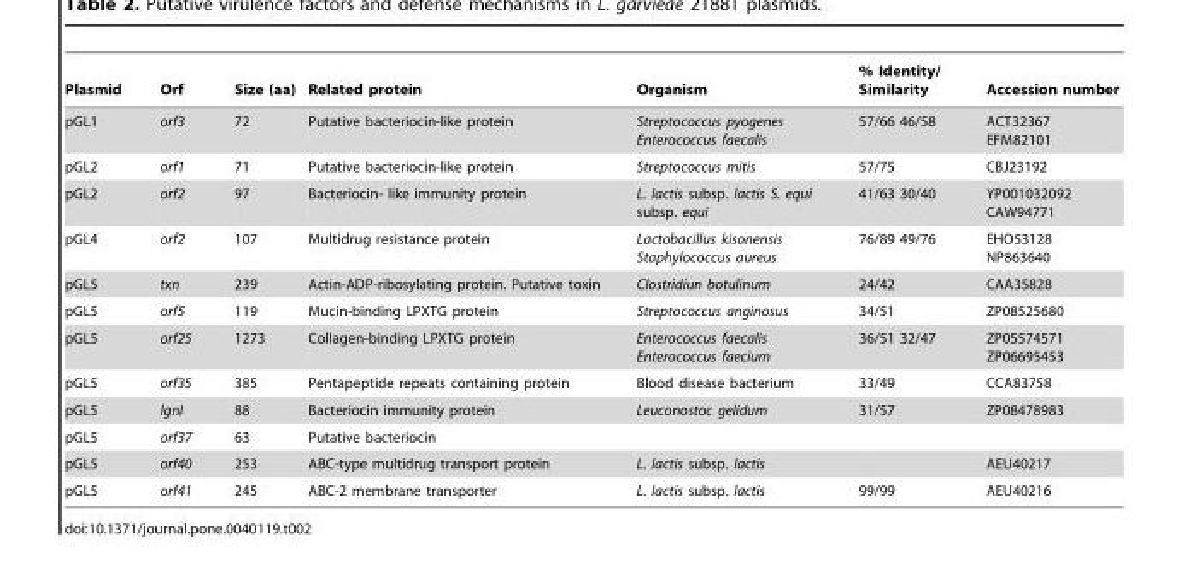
<table><thead><tr><td>Plasmid</td><td>Orf</td><td>Size (aa)</td><td>Related protein</td><td>Organism</td><td>% Identity/ Similarity</td><td>Accession number</td></tr></thead><tbody><tr><td>pGL1</td><td>orf3</td><td>72</td><td>Putative bacteriocin-like protein</td><td>Streptococcus pyogenes Enterococcus faecalis</td><td>57/66 46/58</td><td>ACT32367 EFM82101</td></tr><tr><td>pGL2</td><td>orf1</td><td>71</td><td>Putative bacteriocin-like protein</td><td>Streptococcus mitis</td><td>57/75</td><td>CBJ23192</td></tr><tr><td>pGL2</td><td>orf2</td><td>97</td><td>Bacteriocin- like immunity protein</td><td>L. lactis subsp. lactis S. equi subsp. equi</td><td>41/63 30/40</td><td>YP001032092 CAW94771</td></tr><tr><td>pGL4</td><td>orf2</td><td>107</td><td>Multidrug resistance protein</td><td>Lactobacillus kisonensis Staphylococcus aureus</td><td>76/89 49/76</td><td>EHO53128 NP863640</td></tr><tr><td>pGL5</td><td>txn</td><td>239</td><td>Actin-ADP-ribosylating protein. Putative toxin</td><td>Clostridiun botulinum</td><td>24/42</td><td>CAA35828</td></tr><tr><td>pGL5</td><td>orf5</td><td>119</td><td>Mucin-binding LPXTG protein</td><td>Streptococcus anginosus</td><td>34/51</td><td>ZP08525680</td></tr><tr><td>pGL5</td><td>orf25</td><td>1273</td><td>Collagen-binding LPXTG protein</td><td>Enterococcus faecalis Enterococcus faecium</td><td>36/51 32/47</td><td>ZP05574571 ZP06695453</td></tr><tr><td>pGL5</td><td>orf35</td><td>385</td><td>Pentapeptide repeats containing protein</td><td>Blood disease bacterium</td><td>33/49</td><td>CCA83758</td></tr><tr><td>pGL5</td><td>lgnI</td><td>88</td><td>Bacteriocin immunity protein</td><td>Leuconostoc gelidum</td><td>31/57</td><td>ZP08478983</td></tr><tr><td>pGL5</td><td>orf37</td><td>63</td><td>Putative bacteriocin</td><td></td><td></td><td></td></tr><tr><td>pGL5</td><td>orf40</td><td>253</td><td>ABC-type multidrug transport protein</td><td>L. lactis subsp. lactis</td><td></td><td>AEU40217</td></tr><tr><td>pGL5</td><td>orf41</td><td>245</td><td>ABC-2 membrane transporter</td><td>L. lactis subsp. lactis</td><td>99/99</td><td>AEU40216</td></tr></tbody></table>